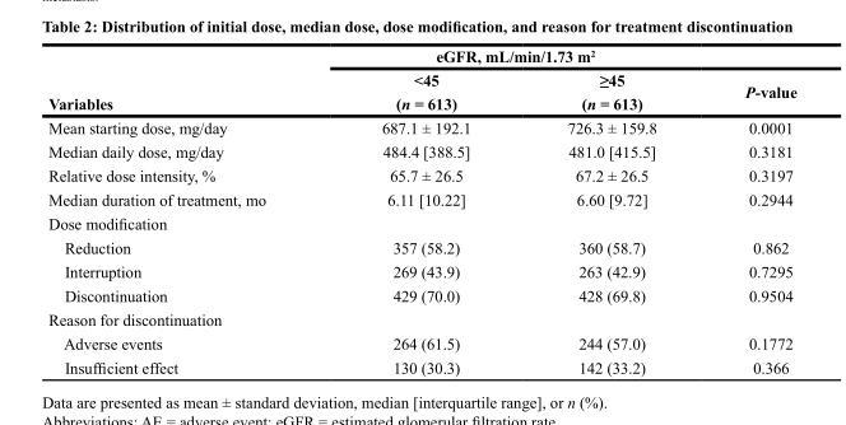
<table><thead><tr><td rowspan="3">Variables</td><td colspan="2">eGFR, mL/min/1.73 m<sup>2</sup></td><td rowspan="3">P-value</td></tr><tr><td rowspan="2">&lt;45 (n = 613)</td><td rowspan="2">≥45 (n = 613)</td></tr><tr></tr></thead><tbody><tr><td>Mean starting dose, mg/day</td><td>687.1 ± 192.1</td><td>726.3 ± 159.8</td><td>0.0001</td></tr><tr><td>Median daily dose, mg/day</td><td>484.4 [388.5]</td><td>481.0 [415.5]</td><td>0.3181</td></tr><tr><td>Relative dose intensity, %</td><td>65.7 ± 26.5</td><td>67.2 ± 26.5</td><td>0.3197</td></tr><tr><td>Median duration of treatment, mo</td><td>6.11 [10.22]</td><td>6.60 [9.72]</td><td>0.2944</td></tr><tr><td colspan="4">Dose modification</td></tr><tr><td>Reduction</td><td>357 (58.2)</td><td>360 (58.7)</td><td>0.862</td></tr><tr><td>Interruption</td><td>269 (43.9)</td><td>263 (42.9)</td><td>0.7295</td></tr><tr><td>Discontinuation</td><td>429 (70.0)</td><td>428 (69.8)</td><td>0.9504</td></tr><tr><td colspan="4">Reason for discontinuation</td></tr><tr><td>Adverse events</td><td>264 (61.5)</td><td>244 (57.0)</td><td>0.1772</td></tr><tr><td>Insufficient effect</td><td>130 (30.3)</td><td>142 (33.2)</td><td>0.366</td></tr></tbody></table>